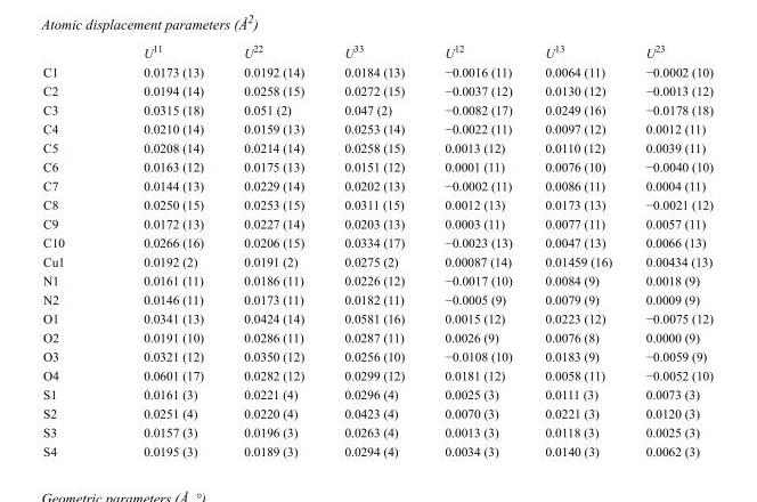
<table><thead><tr><td></td><td>U<sup>11</sup></td><td>U<sup>22</sup></td><td>U<sup>33</sup></td><td>U<sup>12</sup></td><td>U<sup>13</sup></td><td>U<sup>23</sup></td></tr></thead><tbody><tr><td>C1</td><td>0.0173 (13)</td><td>0.0192 (14)</td><td>0.0184 (13)</td><td>−0.0016 (11)</td><td>0.0064 (11)</td><td>−0.0002 (10)</td></tr><tr><td>C2</td><td>0.0194 (14)</td><td>0.0258 (15)</td><td>0.0272 (15)</td><td>−0.0037 (12)</td><td>0.0130 (12)</td><td>−0.0013 (12)</td></tr><tr><td>C3</td><td>0.0315 (18)</td><td>0.051 (2)</td><td>0.047 (2)</td><td>−0.0082 (17)</td><td>0.0249 (16)</td><td>−0.0178 (18)</td></tr><tr><td>C4</td><td>0.0210 (14)</td><td>0.0159 (13)</td><td>0.0253 (14)</td><td>−0.0022 (11)</td><td>0.0097 (12)</td><td>0.0012 (11)</td></tr><tr><td>C5</td><td>0.0208 (14)</td><td>0.0214 (14)</td><td>0.0258 (15)</td><td>0.0013 (12)</td><td>0.0110 (12)</td><td>0.0039 (11)</td></tr><tr><td>C6</td><td>0.0163 (12)</td><td>0.0175 (13)</td><td>0.0151 (12)</td><td>0.0001 (11)</td><td>0.0076 (10)</td><td>−0.0040 (10)</td></tr><tr><td>C7</td><td>0.0144 (13)</td><td>0.0229 (14)</td><td>0.0202 (13)</td><td>−0.0002 (11)</td><td>0.0086 (11)</td><td>0.0004 (11)</td></tr><tr><td>C8</td><td>0.0250 (15)</td><td>0.0253 (15)</td><td>0.0311 (15)</td><td>0.0012 (13)</td><td>0.0173 (13)</td><td>−0.0021 (12)</td></tr><tr><td>C9</td><td>0.0172 (13)</td><td>0.0227 (14)</td><td>0.0203 (13)</td><td>0.0003 (11)</td><td>0.0077 (11)</td><td>0.0057 (11)</td></tr><tr><td>C10</td><td>0.0266 (16)</td><td>0.0206 (15)</td><td>0.0334 (17)</td><td>−0.0023 (13)</td><td>0.0047 (13)</td><td>0.0066 (13)</td></tr><tr><td>Cu1</td><td>0.0192 (2)</td><td>0.0191 (2)</td><td>0.0275 (2)</td><td>0.00087 (14)</td><td>0.01459 (16)</td><td>0.00434 (13)</td></tr><tr><td>N1</td><td>0.0161 (11)</td><td>0.0186 (11)</td><td>0.0226 (12)</td><td>−0.0017 (10)</td><td>0.0084 (9)</td><td>0.0018 (9)</td></tr><tr><td>N2</td><td>0.0146 (11)</td><td>0.0173 (11)</td><td>0.0182 (11)</td><td>−0.0005 (9)</td><td>0.0079 (9)</td><td>0.0009 (9)</td></tr><tr><td>O1</td><td>0.0341 (13)</td><td>0.0424 (14)</td><td>0.0581 (16)</td><td>0.0015 (12)</td><td>0.0223 (12)</td><td>−0.0075 (12)</td></tr><tr><td>O2</td><td>0.0191 (10)</td><td>0.0286 (11)</td><td>0.0287 (11)</td><td>0.0026 (9)</td><td>0.0076 (8)</td><td>0.0000 (9)</td></tr><tr><td>O3</td><td>0.0321 (12)</td><td>0.0350 (12)</td><td>0.0256 (10)</td><td>−0.0108 (10)</td><td>0.0183 (9)</td><td>−0.0059 (9)</td></tr><tr><td>O4</td><td>0.0601 (17)</td><td>0.0282 (12)</td><td>0.0299 (12)</td><td>0.0181 (12)</td><td>0.0058 (11)</td><td>−0.0052 (10)</td></tr><tr><td>S1</td><td>0.0161 (3)</td><td>0.0221 (4)</td><td>0.0296 (4)</td><td>0.0025 (3)</td><td>0.0111 (3)</td><td>0.0073 (3)</td></tr><tr><td>S2</td><td>0.0251 (4)</td><td>0.0220 (4)</td><td>0.0423 (4)</td><td>0.0070 (3)</td><td>0.0221 (3)</td><td>0.0120 (3)</td></tr><tr><td>S3</td><td>0.0157 (3)</td><td>0.0196 (3)</td><td>0.0263 (4)</td><td>0.0013 (3)</td><td>0.0118 (3)</td><td>0.0025 (3)</td></tr><tr><td>S4</td><td>0.0195 (3)</td><td>0.0189 (3)</td><td>0.0294 (4)</td><td>0.0034 (3)</td><td>0.0140 (3)</td><td>0.0062 (3)</td></tr></tbody></table>